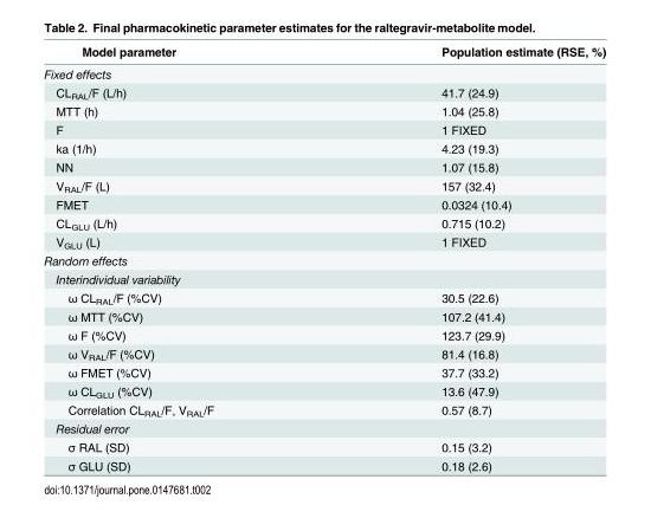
<table><thead><tr><td>Model parameter</td><td>Population estimate (RSE, %)</td></tr></thead><tbody><tr><td colspan="2">Fixed effects</td></tr><tr><td>CL<sub>RAL</sub>/F (L/h)</td><td>41.7 (24.9)</td></tr><tr><td>MTT (h)</td><td>1.04 (25.8)</td></tr><tr><td>F</td><td>1 FIXED</td></tr><tr><td>ka (1/h)</td><td>4.23 (19.3)</td></tr><tr><td>NN</td><td>1.07 (15.8)</td></tr><tr><td>V<sub>RAL</sub>/F (L)</td><td>157 (32.4)</td></tr><tr><td>FMET</td><td>0.0324 (10.4)</td></tr><tr><td>CL<sub>GLU</sub> (L/h)</td><td>0.715 (10.2)</td></tr><tr><td>V<sub>GLU</sub> (L)</td><td>1 FIXED</td></tr><tr><td colspan="2">Random effects</td></tr><tr><td colspan="2">Interindividual variability</td></tr><tr><td>ω CL<sub>RAL</sub>/F (%CV)</td><td>30.5 (22.6)</td></tr><tr><td>ω MTT (%CV)</td><td>107.2 (41.4)</td></tr><tr><td>ω F (%CV)</td><td>123.7 (29.9)</td></tr><tr><td>ω V<sub>RAL</sub>/F (%CV)</td><td>81.4 (16.8)</td></tr><tr><td>ω FMET (%CV)</td><td>37.7 (33.2)</td></tr><tr><td>ω CL<sub>GLU</sub> (%CV)</td><td>13.6 (47.9)</td></tr><tr><td>Correlation CL<sub>RAL</sub>/F, V<sub>RAL</sub>/F</td><td>0.57 (8.7)</td></tr><tr><td colspan="2">Residual error</td></tr><tr><td>σ RAL (SD)</td><td>0.15 (3.2)</td></tr><tr><td>σ GLU (SD)</td><td>0.18 (2.6)</td></tr></tbody></table>